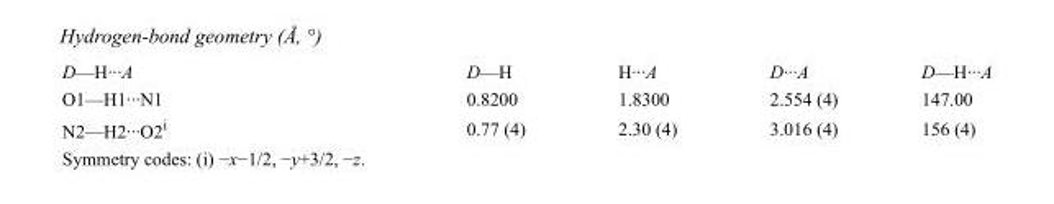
<table><tbody><tr><td>D—H···A</td><td>D—H</td><td>H···A</td><td>D···A</td><td>D—H···A</td></tr><tr><td>O1—H1···N1</td><td>0.8200</td><td>1.8300</td><td>2.554 (4)</td><td>147.00</td></tr><tr><td>N2—H2···O2<sup>i</sup></td><td>0.77 (4)</td><td>2.30 (4)</td><td>3.016 (4)</td><td>156 (4)</td></tr></tbody></table>